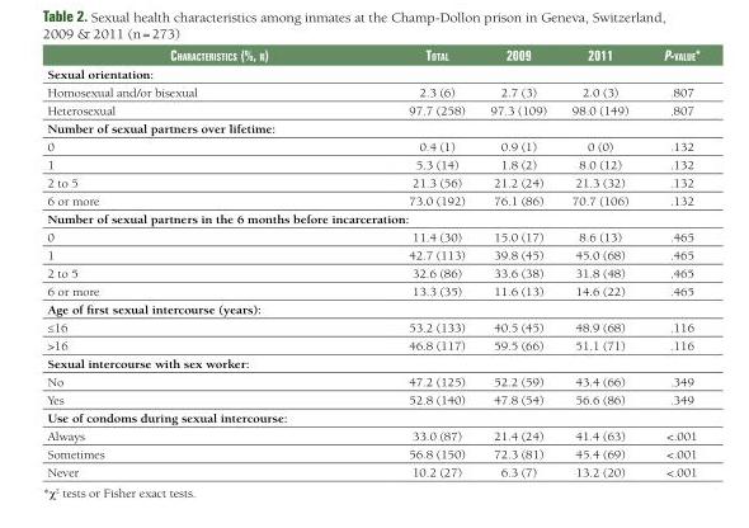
<table><thead><tr><td>CharaCteristiCs (%, n)</td><td>total</td><td>2009</td><td>2011</td><td>P-value*</td></tr></thead><tbody><tr><td colspan="5">Sexual orientation:</td></tr><tr><td>Homosexual and/or bisexual</td><td>2.3 (6)</td><td>2.7 (3)</td><td>2.0 (3)</td><td>.807</td></tr><tr><td>Heterosexual</td><td>97.7 (258)</td><td>97.3 (109)</td><td>98.0 (149)</td><td>.807</td></tr><tr><td colspan="5">Number of sexual partners over lifetime:</td></tr><tr><td>0</td><td>0.4 (1)</td><td>0.9 (1)</td><td>0 (0)</td><td>.132</td></tr><tr><td>1</td><td>5.3 (14)</td><td>1.8 (2)</td><td>8.0 (12)</td><td>.132</td></tr><tr><td>2 to 5</td><td>21.3 (56)</td><td>21.2 (24)</td><td>21.3 (32)</td><td>.132</td></tr><tr><td>6 or more</td><td>73.0 (192)</td><td>76.1 (86)</td><td>70.7 (106)</td><td>.132</td></tr><tr><td colspan="5">Number of sexual partners in the 6 months before incarceration:</td></tr><tr><td>0</td><td>11.4 (30)</td><td>15.0 (17)</td><td>8.6 (13)</td><td>.465</td></tr><tr><td>1</td><td>42.7 (113)</td><td>39.8 (45)</td><td>45.0 (68)</td><td>.465</td></tr><tr><td>2 to 5</td><td>32.6 (86)</td><td>33.6 (38)</td><td>31.8 (48)</td><td>.465</td></tr><tr><td>6 or more</td><td>13.3 (35)</td><td>11.6 (13)</td><td>14.6 (22)</td><td>.465</td></tr><tr><td colspan="5">Age of first sexual intercourse (years):</td></tr><tr><td>≤16</td><td>53.2 (133)</td><td>40.5 (45)</td><td>48.9 (68)</td><td>.116</td></tr><tr><td>&gt;16</td><td>46.8 (117)</td><td>59.5 (66)</td><td>51.1 (71)</td><td>.116</td></tr><tr><td colspan="5">Sexual intercourse with sex worker:</td></tr><tr><td>No</td><td>47.2 (125)</td><td>52.2 (59)</td><td>43.4 (66)</td><td>.349</td></tr><tr><td>Yes</td><td>52.8 (140)</td><td>47.8 (54)</td><td>56.6 (86)</td><td>.349</td></tr><tr><td colspan="5">Use of condoms during sexual intercourse:</td></tr><tr><td>Always</td><td>33.0 (87)</td><td>21.4 (24)</td><td>41.4 (63)</td><td>&lt;.001</td></tr><tr><td>Sometimes</td><td>56.8 (150)</td><td>72.3 (81)</td><td>45.4 (69)</td><td>&lt;.001</td></tr><tr><td>Never</td><td>10.2 (27)</td><td>6.3 (7)</td><td>13.2 (20)</td><td>&lt;.001</td></tr></tbody></table>